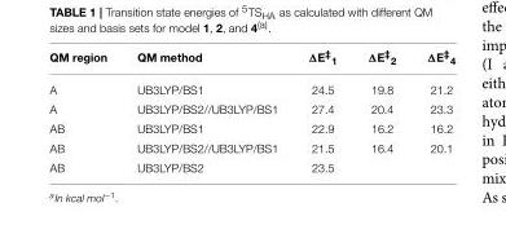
<table><thead><tr><td>QM region</td><td>QM method</td><td>ΔE<sup>‡</sup><sub>1</sub></td><td>ΔE<sup>‡</sup><sub>2</sub></td><td>ΔE<sup>‡</sup><sub>4</sub></td></tr></thead><tbody><tr><td>A</td><td>UB3LYP/BS1</td><td>24.5</td><td>19.8</td><td>21.2</td></tr><tr><td>A</td><td>UB3LYP/BS2//UB3LYP/BS1</td><td>27.4</td><td>20.4</td><td>23.3</td></tr><tr><td>AB</td><td>UB3LYP/BS1</td><td>22.9</td><td>16.2</td><td>16.2</td></tr><tr><td>AB</td><td>UB3LYP/BS2//UB3LYP/BS1</td><td>21.5</td><td>16.4</td><td>20.1</td></tr><tr><td>AB</td><td>UB3LYP/BS2</td><td>23.5</td><td></td><td></td></tr></tbody></table>